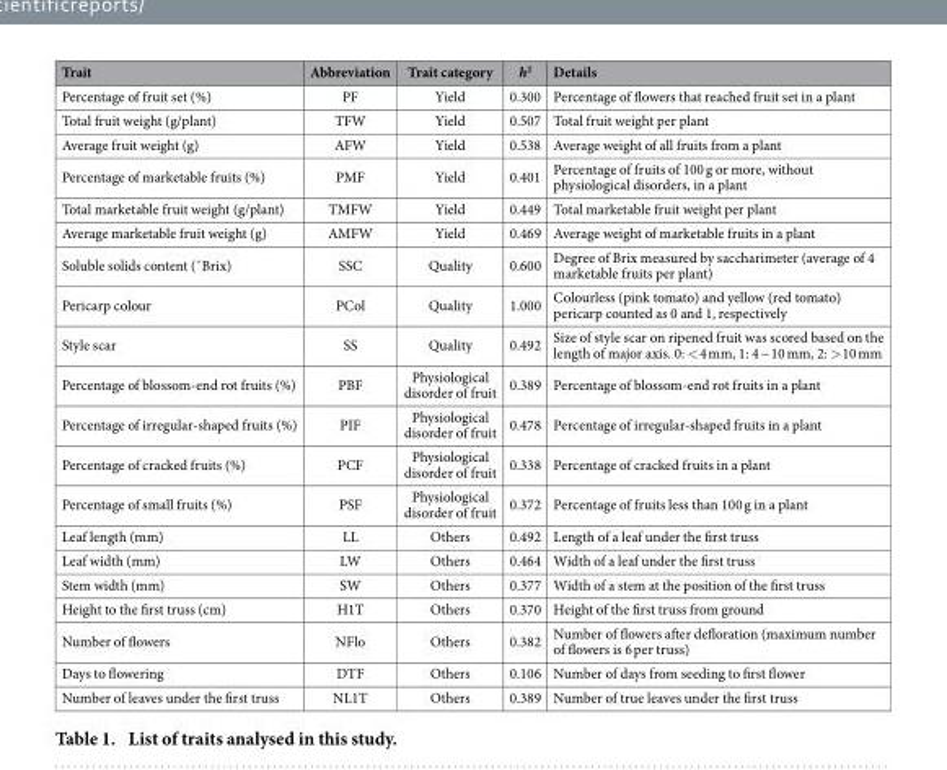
<table><thead><tr><td>Trait</td><td>Abbreviation</td><td>Trait category</td><td>h<sup>2</sup></td><td>Details</td></tr></thead><tbody><tr><td>Percentage of fruit set (%)</td><td>PF</td><td>Yield</td><td>0.300</td><td>Percentage of flowers that reached fruit set in a plant</td></tr><tr><td>Total fruit weight (g/plant)</td><td>TFW</td><td>Yield</td><td>0.507</td><td>Total fruit weight per plant</td></tr><tr><td>Average fruit weight (g)</td><td>AFW</td><td>Yield</td><td>0.538</td><td>Average weight of all fruits from a plant</td></tr><tr><td>Percentage of marketable fruits (%)</td><td>PMF</td><td>Yield</td><td>0.401</td><td>Percentage of fruits of 100 g or more, without physiological disorders, in a plant</td></tr><tr><td>Total marketable fruit weight (g/plant)</td><td>TMFW</td><td>Yield</td><td>0.449</td><td>Total marketable fruit weight per plant</td></tr><tr><td>Average marketable fruit weight (g)</td><td>AMFW</td><td>Yield</td><td>0.469</td><td>Average weight of marketable fruits in a plant</td></tr><tr><td>Soluble solids content (˚Brix)</td><td>SSC</td><td>Quality</td><td>0.600</td><td>Degree of Brix measured by saccharimeter (average of 4 marketable fruits per plant)</td></tr><tr><td>Pericarp colour</td><td>PCol</td><td>Quality</td><td>1.000</td><td>Colourless (pink tomato) and yellow (red tomato) pericarp counted as 0 and 1, respectively</td></tr><tr><td>Style scar</td><td>SS</td><td>Quality</td><td>0.492</td><td>Size of style scar on ripened fruit was scored based on the length of major axis. 0: &lt; 4 mm, 1: 4 ~ 10 mm, 2: &gt; 10 mm</td></tr><tr><td>Percentage of blossom-end rot fruits (%)</td><td>PBF</td><td>Physiological disorder of fruit</td><td>0.389</td><td>Percentage of blossom-end rot fruits in a plant</td></tr><tr><td>Percentage of irregular-shaped fruits (%)</td><td>PIF</td><td>Physiological disorder of fruit</td><td>0.478</td><td>Percentage of irregular-shaped fruits in a plant</td></tr><tr><td>Percentage of cracked fruits (%)</td><td>PCF</td><td>Physiological disorder of fruit</td><td>0.338</td><td>Percentage of cracked fruits in a plant</td></tr><tr><td>Percentage of small fruits (%)</td><td>PSF</td><td>Physiological disorder of fruit</td><td>0.372</td><td>Percentage of fruits less than 100 g in a plant</td></tr><tr><td>Leaf length (mm)</td><td>LL</td><td>Others</td><td>0.492</td><td>Length of a leaf under the first truss</td></tr><tr><td>Leaf width (mm)</td><td>LW</td><td>Others</td><td>0.464</td><td>Width of a leaf under the first truss</td></tr><tr><td>Stem width (mm)</td><td>SW</td><td>Others</td><td>0.377</td><td>Width of a stem at the position of the first truss</td></tr><tr><td>Height to the first truss (cm)</td><td>H1T</td><td>Others</td><td>0.370</td><td>Height of the first truss from ground</td></tr><tr><td>Number of flowers</td><td>NFlo</td><td>Others</td><td>0.382</td><td>Number of flowers after defloration (maximum number of flowers is 6 per truss)</td></tr><tr><td>Days to flowering</td><td>DTF</td><td>Others</td><td>0.106</td><td>Number of days from seeding to first flower</td></tr><tr><td>Number of leaves under the first truss</td><td>NL1T</td><td>Others</td><td>0.389</td><td>Number of true leaves under the first truss</td></tr></tbody></table>